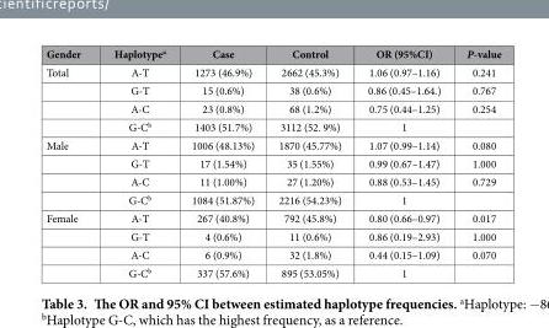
<table><thead><tr><td>Gender</td><td>Haplotype<sup>a</sup></td><td>Case</td><td>Control</td><td>OR (95%CI)</td><td>P-value</td></tr></thead><tbody><tr><td rowspan="4">Total</td><td>A-T</td><td>1273 (46.9%)</td><td>2662 (45.3%)</td><td>1.06 (0.97–1.16)</td><td>0.241</td></tr><tr><td>G-T</td><td>15 (0.6%)</td><td>38 (0.6%)</td><td>0.86 (0.45–1.64.)</td><td>0.767</td></tr><tr><td>A-C</td><td>23 (0.8%)</td><td>68 (1.2%)</td><td>0.75 (0.44–1.25)</td><td>0.254</td></tr><tr><td>G-C<sup>b</sup></td><td>1403 (51.7%)</td><td>3112 (52. 9%)</td><td>1</td><td></td></tr><tr><td rowspan="4">Male</td><td>A-T</td><td>1006 (48.13%)</td><td>1870 (45.77%)</td><td>1.07 (0.99–1.14)</td><td>0.080</td></tr><tr><td>G-T</td><td>17 (1.54%)</td><td>35 (1.55%)</td><td>0.99 (0.67–1.47)</td><td>1.000</td></tr><tr><td>A-C</td><td>11 (1.00%)</td><td>27 (1.20%)</td><td>0.88 (0.53–1.45)</td><td>0.729</td></tr><tr><td>G-C<sup>b</sup></td><td>1084 (51.87%)</td><td>2216 (54.23%)</td><td>1</td><td></td></tr><tr><td rowspan="4">Female</td><td>A-T</td><td>267 (40.8%)</td><td>792 (45.8%)</td><td>0.80 (0.66–0.97)</td><td>0.017</td></tr><tr><td>G-T</td><td>4 (0.6%)</td><td>11 (0.6%)</td><td>0.86 (0.19–2.93)</td><td>1.000</td></tr><tr><td>A-C</td><td>6 (0.9%)</td><td>32 (1.8%)</td><td>0.44 (0.15–1.09)</td><td>0.070</td></tr><tr><td>G-C<sup>b</sup></td><td>337 (57.6%)</td><td>895 (53.05%)</td><td>1</td><td></td></tr></tbody></table>